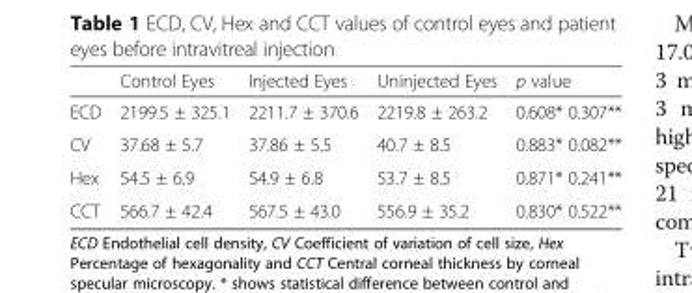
<table><thead><tr><td></td><td>Control Eyes</td><td>Injected Eyes</td><td>Uninjected Eyes</td><td>p value</td></tr></thead><tbody><tr><td>ECD</td><td>2199.5 ± 325.1</td><td>2211.7 ± 370.6</td><td>2219.8 ± 263.2</td><td>0.608* 0.307**</td></tr><tr><td>CV</td><td>37.68 ± 5.7</td><td>37.86 ± 5.5</td><td>40.7 ± 8.5</td><td>0.883* 0.082**</td></tr><tr><td>Hex</td><td>54.5 ± 6.9</td><td>54.9 ± 6.8</td><td>53.7 ± 8.5</td><td>0.871* 0.241**</td></tr><tr><td>CCT</td><td>566.7 ± 42.4</td><td>567.5 ± 43.0</td><td>556.9 ± 35.2</td><td>0.830* 0.522**</td></tr></tbody></table>